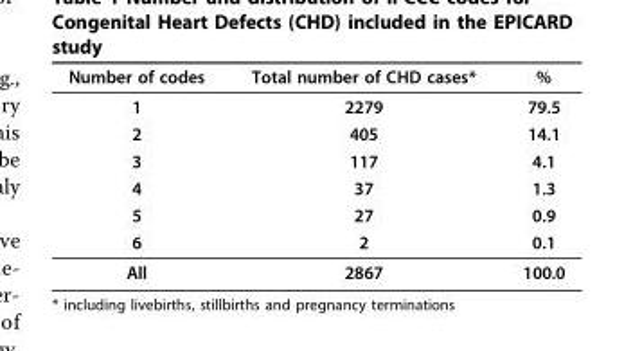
<table><thead><tr><td>Number of codes</td><td>Total number of CHD cases*</td><td>%</td></tr></thead><tbody><tr><td>1</td><td>2279</td><td>79.5</td></tr><tr><td>2</td><td>405</td><td>14.1</td></tr><tr><td>3</td><td>117</td><td>4.1</td></tr><tr><td>4</td><td>37</td><td>1.3</td></tr><tr><td>5</td><td>27</td><td>0.9</td></tr><tr><td>6</td><td>2</td><td>0.1</td></tr><tr><td>All</td><td>2867</td><td>100.0</td></tr></tbody></table>